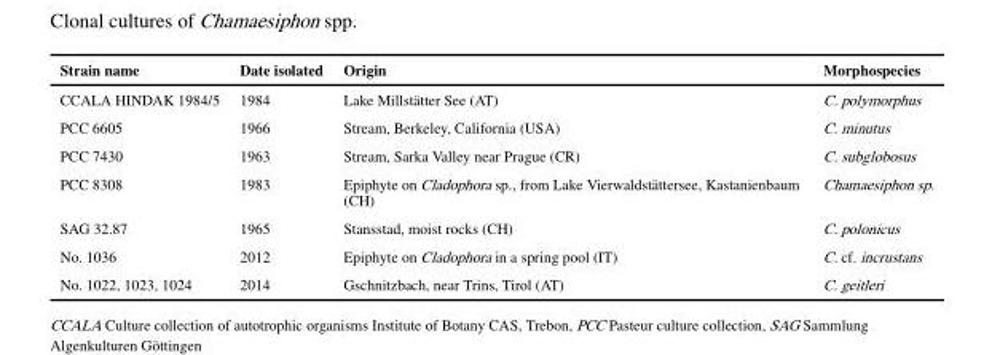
<table><thead><tr><td>Strain name</td><td>Date isolated</td><td>Origin</td><td>Morphospecies</td></tr></thead><tbody><tr><td>CCALA HINDAK 1984/5</td><td>1984</td><td>Lake Millstätter See (AT)</td><td>C. polymorphus</td></tr><tr><td>PCC 6605</td><td>1966</td><td>Stream, Berkeley, California (USA)</td><td>C. minutus</td></tr><tr><td>PCC 7430</td><td>1963</td><td>Stream, Sarka Valley near Prague (CR)</td><td>C. subglobosus</td></tr><tr><td>PCC 8308</td><td>1983</td><td>Epiphyte on Cladophora sp., from Lake Vierwaldstättersee, Kastanienbaum (CH)</td><td>Chamaesiphon sp.</td></tr><tr><td>SAG 32.87</td><td>1965</td><td>Stansstad, moist rocks (CH)</td><td>C. polonicus</td></tr><tr><td>No. 1036</td><td>2012</td><td>Epiphyte on Cladophora in a spring pool (IT)</td><td>C. cf. incrustans</td></tr><tr><td>No. 1022, 1023, 1024</td><td>2014</td><td>Gschnitzbach, near Trins, Tirol (AT)</td><td>C. geitleri</td></tr></tbody></table>